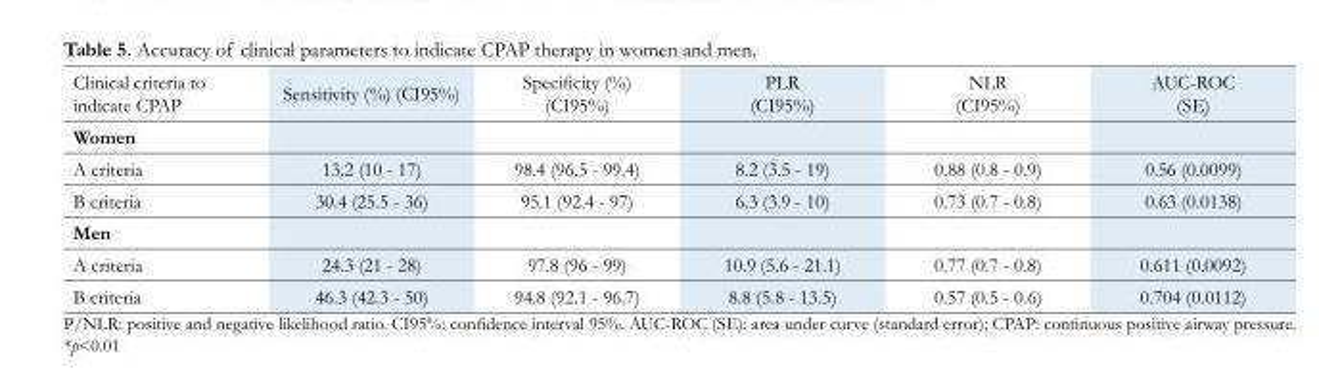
<table><thead><tr><td>Clinical criteria to indicate CPAP</td><td>Sensitivity (%) (CI95%)</td><td>Specificity (%) (CI95%)</td><td>PLR (CI95%)</td><td>NLR (CI95%)</td><td>AUC-ROC (SE)</td></tr></thead><tbody><tr><td colspan="6">Women</td></tr><tr><td>A criteria</td><td>13.2 (10 - 17)</td><td>98.4 (96.5 - 99.4)</td><td>8.2 (3.5 - 19)</td><td>0.88 (0.8 - 0.9)</td><td>0.56 (0.0099)</td></tr><tr><td>B criteria</td><td>30.4 (25.5 - 36)</td><td>95.1 (92.4 - 97)</td><td>6.3 (3.9 - 10)</td><td>0.73 (0.7 - 0.8)</td><td>0.63 (0.0138)</td></tr><tr><td colspan="6">Men</td></tr><tr><td>A criteria</td><td>24.3 (21 - 28)</td><td>97.8 (96 - 99)</td><td>10.9 (5.6 - 21.1)</td><td>0.77 (0.7 - 0.8)</td><td>0.611 (0.0092)</td></tr><tr><td>B criteria</td><td>46.3 (42.3 - 50)</td><td>94.8 (92.1 - 96.7)</td><td>8.8 (5.8 - 13.5)</td><td>0.57 (0.5 - 0.6)</td><td>0.704 (0.0112)</td></tr></tbody></table>